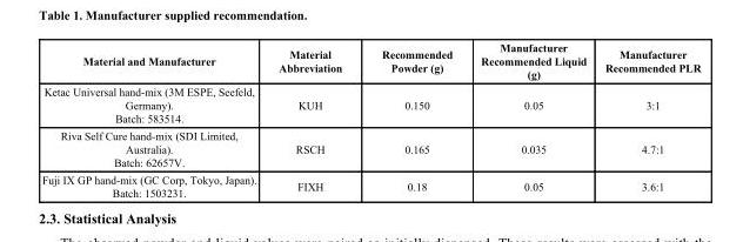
<table><thead><tr><td>Material and Manufacturer</td><td>Material Abbreviation</td><td>Recommended Powder (g)</td><td>Manufacturer Recommended Liquid (g)</td><td>Manufacturer Recommended PLR</td></tr></thead><tbody><tr><td>Ketac Universal hand-mix (3M ESPE, Seefeld, Germany). Batch: 583514.</td><td>KUH</td><td>0.150</td><td>0.05</td><td>3:1</td></tr><tr><td>Riva Self Cure hand-mix (SDI Limited, Australia). Batch: 62657V.</td><td>RSCH</td><td>0.165</td><td>0.035</td><td>4.7:1</td></tr><tr><td>Fuji IX GP hand-mix (GC Corp, Tokyo, Japan). Batch: 1503231.</td><td>FIXH</td><td>0.18</td><td>0.05</td><td>3.6:1</td></tr></tbody></table>